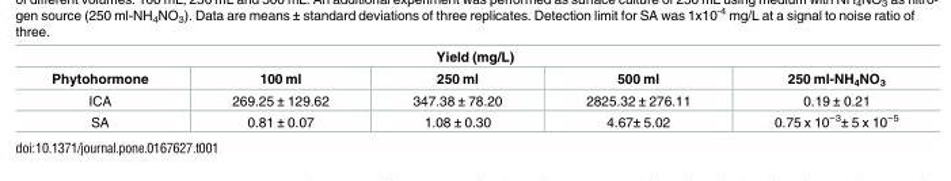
<table><thead><tr><td colspan="5">Yield (mg/L)</td></tr><tr><td>Phytohormone</td><td>100 ml</td><td>250 ml</td><td>500 ml</td><td>250 ml-NH<sub>4</sub>NO<sub>3</sub></td></tr></thead><tbody><tr><td>ICA</td><td>269.25 ± 129.62</td><td>347.38 ± 78.20</td><td>2825.32 ± 276.11</td><td>0.19 ± 0.21</td></tr><tr><td>SA</td><td>0.81 ± 0.07</td><td>1.08 ± 0.30</td><td>4.67± 5.02</td><td>0.75 x 10<sup>−3</sup>± 5 x 10<sup>−5</sup></td></tr></tbody></table>